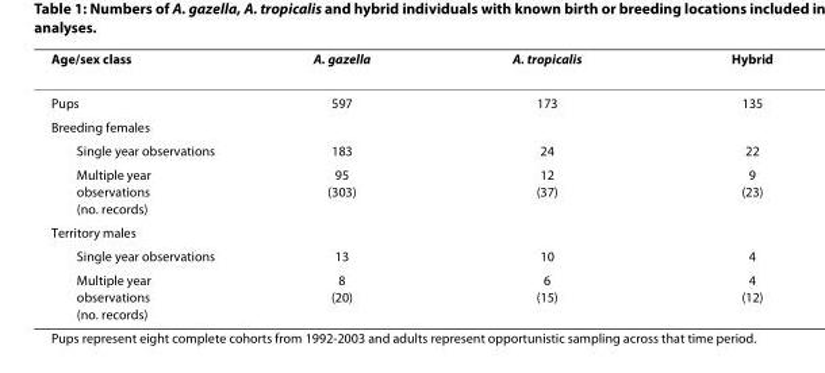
<table><thead><tr><td>Age/sex class</td><td>A. gazella</td><td>A. tropicalis</td><td>Hybrid</td></tr></thead><tbody><tr><td>Pups</td><td>597</td><td>173</td><td>135</td></tr><tr><td colspan="4">Breeding females</td></tr><tr><td>Single year observations</td><td>183</td><td>24</td><td>22</td></tr><tr><td>Multiple year observations (no. records)</td><td>95 (303)</td><td>12 (37)</td><td>9 (23)</td></tr><tr><td colspan="4">Territory males</td></tr><tr><td>Single year observations</td><td>13</td><td>10</td><td>4</td></tr><tr><td>Multiple year observations (no. records)</td><td>8 (20)</td><td>6 (15)</td><td>4 (12)</td></tr></tbody></table>